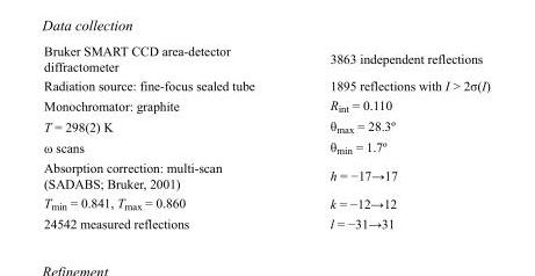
<table><tbody><tr><td>Bruker SMART CCD area-detector diffractometer</td><td>3863 independent reflections</td></tr><tr><td>Radiation source: fine-focus sealed tube</td><td>1895 reflections with I &gt; 2σ(I)</td></tr><tr><td>Monochromator: graphite</td><td>R<sub>int</sub> = 0.110</td></tr><tr><td>T = 298(2) K</td><td>θ<sub>max</sub> = 28.3º</td></tr><tr><td>ω scans</td><td>θ<sub>min</sub> = 1.7º</td></tr><tr><td>Absorption correction: multi-scan (SADABS; Bruker, 2001)</td><td>h = −17→17</td></tr><tr><td>T<sub>min</sub> = 0.841, T<sub>max</sub> = 0.860</td><td>k = −12→12</td></tr><tr><td>24542 measured reflections</td><td>l = −31→31</td></tr></tbody></table>